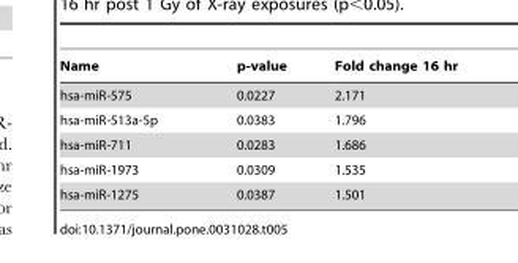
<table><thead><tr><td>Name</td><td>p-value</td><td>Fold change 16 hr</td></tr></thead><tbody><tr><td>hsa-miR-575</td><td>0.0227</td><td>2.171</td></tr><tr><td>hsa-miR-513a-5p</td><td>0.0383</td><td>1.796</td></tr><tr><td>hsa-miR-711</td><td>0.0283</td><td>1.686</td></tr><tr><td>hsa-miR-1973</td><td>0.0309</td><td>1.535</td></tr><tr><td>hsa-miR-1275</td><td>0.0387</td><td>1.501</td></tr></tbody></table>